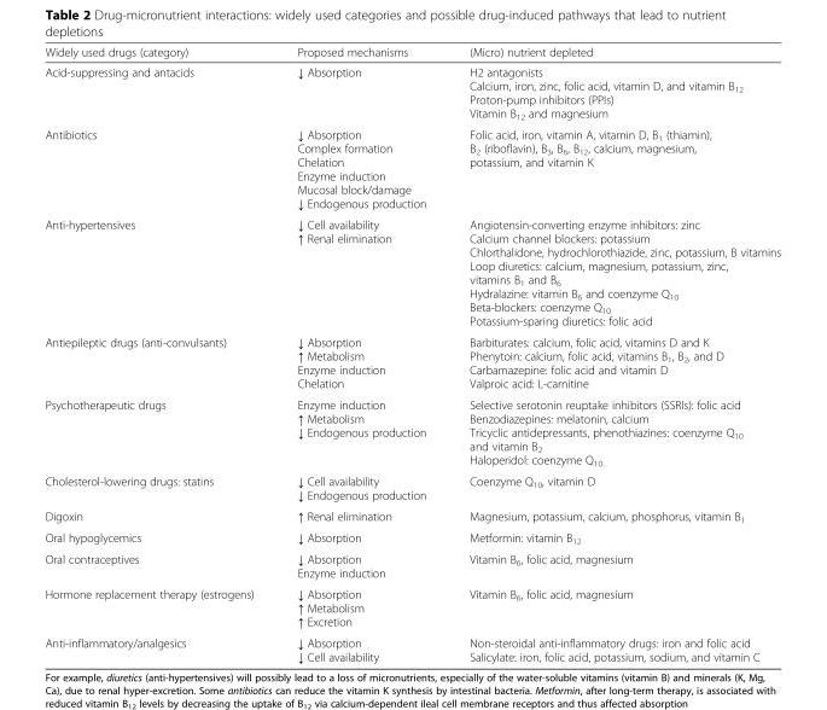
<table><thead><tr><td>Widely used drugs (category)</td><td>Proposed mechanisms</td><td>(Micro) nutrient depleted</td></tr></thead><tbody><tr><td>Acid-suppressing and antacids</td><td>↓ Absorption</td><td>H2 antagonists Calcium, iron, zinc, folic acid, vitamin D, and vitamin B<sub>12</sub> Proton-pump inhibitors (PPIs) Vitamin B<sub>12</sub> and magnesium</td></tr><tr><td>Antibiotics</td><td>↓ Absorption Complex formation Chelation Enzyme induction Mucosal block/damage ↓ Endogenous production</td><td>Folic acid, iron, vitamin A, vitamin D, B<sub>1</sub> (thiamin), B<sub>2</sub> (riboflavin), B<sub>3</sub>, B<sub>6</sub>, B<sub>12</sub>, calcium, magnesium, potassium, and vitamin K</td></tr><tr><td>Anti-hypertensives</td><td>↓ Cell availability ↑ Renal elimination</td><td>Angiotensin-converting enzyme inhibitors: zinc Calcium channel blockers: potassium Chlorthalidone, hydrochlorothiazide, zinc, potassium, B vitamins Loop diuretics: calcium, magnesium, potassium, zinc, vitamins B<sub>1</sub> and B<sub>6</sub> Hydralazine: vitamin B<sub>6</sub> and coenzyme Q<sub>10</sub> Beta-blockers: coenzyme Q<sub>10</sub> Potassium-sparing diuretics: folic acid</td></tr><tr><td>Antiepileptic drugs (anti-convulsants)</td><td>↓ Absorption ↑ Metabolism Enzyme induction Chelation</td><td>Barbiturates: calcium, folic acid, vitamins D and K Phenytoin: calcium, folic acid, vitamins B<sub>1</sub>, B<sub>2</sub>, and D Carbamazepine: folic acid and vitamin D Valproic acid: L-carnitine</td></tr><tr><td>Psychotherapeutic drugs</td><td>Enzyme induction ↑ Metabolism ↓ Endogenous production</td><td>Selective serotonin reuptake inhibitors (SSRIs): folic acid Benzodiazepines: melatonin, calcium Tricyclic antidepressants, phenothiazines: coenzyme Q<sub>10</sub> and vitamin B<sub>2</sub> Haloperidol: coenzyme Q<sub>10</sub></td></tr><tr><td>Cholesterol-lowering drugs: statins</td><td>↓ Cell availability ↓ Endogenous production</td><td>Coenzyme Q<sub>10</sub>, vitamin D</td></tr><tr><td>Digoxin</td><td>↑ Renal elimination</td><td>Magnesium, potassium, calcium, phosphorus, vitamin B<sub>1</sub></td></tr><tr><td>Oral hypoglycemics</td><td>↓ Absorption</td><td>Metformin: vitamin B<sub>12</sub></td></tr><tr><td>Oral contraceptives</td><td>↓ Absorption Enzyme induction</td><td>Vitamin B<sub>6</sub>, folic acid, magnesium</td></tr><tr><td>Hormone replacement therapy (estrogens)</td><td>↓ Absorption ↑ Metabolism ↑ Excretion</td><td>Vitamin B<sub>6</sub>, folic acid, magnesium</td></tr><tr><td>Anti-inflammatory/analgesics</td><td>↓ Absorption ↓ Cell availability</td><td>Non-steroidal anti-inflammatory drugs: iron and folic acid Salicylate: iron, folic acid, potassium, sodium, and vitamin C</td></tr></tbody></table>